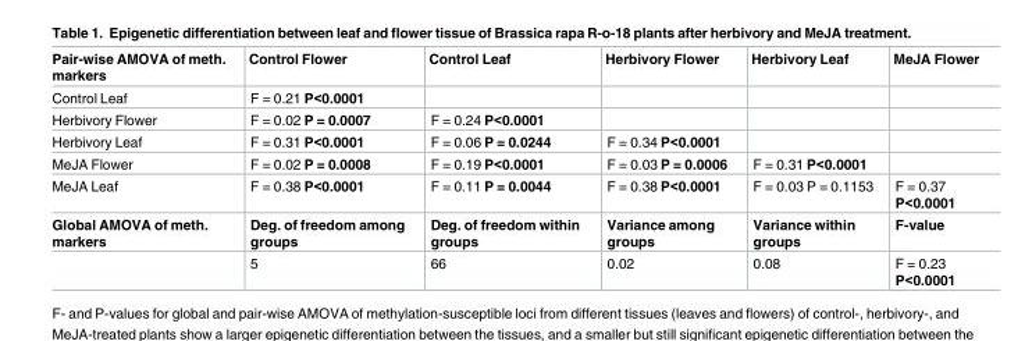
<table><thead><tr><td>Pair-wise AMOVA of meth. markers</td><td>Control Flower</td><td>Control Leaf</td><td>Herbivory Flower</td><td>Herbivory Leaf</td><td>MeJA Flower</td></tr></thead><tbody><tr><td>Control Leaf</td><td>F = 0.21 P&lt;0.0001</td><td></td><td></td><td></td><td></td></tr><tr><td>Herbivory Flower</td><td>F = 0.02 P = 0.0007</td><td>F = 0.24 P&lt;0.0001</td><td></td><td></td><td></td></tr><tr><td>Herbivory Leaf</td><td>F = 0.31 P&lt;0.0001</td><td>F = 0.06 P = 0.0244</td><td>F = 0.34 P&lt;0.0001</td><td></td><td></td></tr><tr><td>MeJA Flower</td><td>F = 0.02 P = 0.0008</td><td>F = 0.19 P&lt;0.0001</td><td>F = 0.03 P = 0.0006</td><td>F = 0.31 P&lt;0.0001</td><td></td></tr><tr><td>MeJA Leaf</td><td>F = 0.38 P&lt;0.0001</td><td>F = 0.11 P = 0.0044</td><td>F = 0.38 P&lt;0.0001</td><td>F = 0.03 P = 0.1153</td><td>F = 0.37 P&lt;0.0001</td></tr><tr><td rowspan="2">Global AMOVA of meth. markers</td><td>Deg. of freedom among groups</td><td>Deg. of freedom within groups</td><td>Variance among groups</td><td>Variance within groups</td><td>F-value</td></tr><tr><td>5</td><td>66</td><td>0.02</td><td>0.08</td><td>F = 0.23 P&lt;0.0001</td></tr></tbody></table>